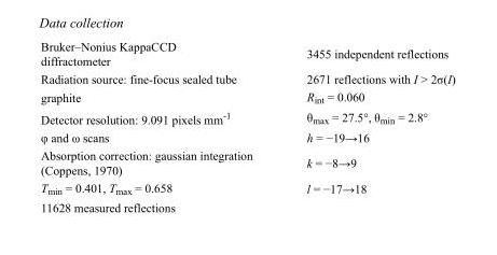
<table><tbody><tr><td>Bruker–Nonius KappaCCD diffractometer</td><td>3455 independent reflections</td></tr><tr><td>Radiation source: fine-focus sealed tube</td><td>2671 reflections with I &gt; 2σ(I)</td></tr><tr><td>graphite</td><td>R<sub>int</sub> = 0.060</td></tr><tr><td>Detector resolution: 9.091 pixels mm<sup>-1</sup></td><td>θ<sub>max</sub> = 27.5°, θ<sub>min</sub> = 2.8°</td></tr><tr><td>φ and ω scans</td><td>h = −19→16</td></tr><tr><td>Absorption correction: gaussian integration (Coppens, 1970)</td><td>k = −8→9</td></tr><tr><td>T<sub>min</sub> = 0.401, T<sub>max</sub> = 0.658</td><td>l = −17→18</td></tr><tr><td>11628 measured reflections</td><td></td></tr></tbody></table>